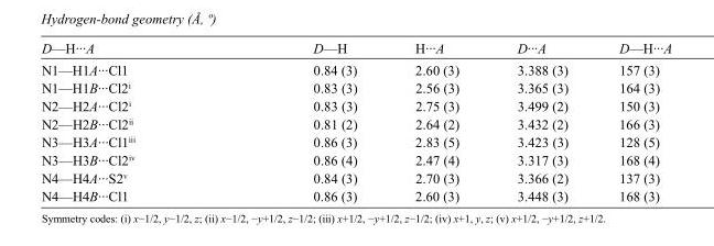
<table><tbody><tr><td>D—H···A</td><td>D—H</td><td>H···A</td><td>D···A</td><td>D—H···A</td></tr><tr><td>N1—H1A···Cl1</td><td>0.84 (3)</td><td>2.60 (3)</td><td>3.388 (3)</td><td>157 (3)</td></tr><tr><td>N1—H1B···Cl2<sup>i</sup></td><td>0.83 (3)</td><td>2.56 (3)</td><td>3.365 (3)</td><td>164 (3)</td></tr><tr><td>N2—H2A···Cl2<sup>i</sup></td><td>0.83 (3)</td><td>2.75 (3)</td><td>3.499 (2)</td><td>150 (3)</td></tr><tr><td>N2—H2B···Cl2<sup>ii</sup></td><td>0.81 (2)</td><td>2.64 (2)</td><td>3.432 (2)</td><td>166 (3)</td></tr><tr><td>N3—H3A···Cl1<sup>iii</sup></td><td>0.86 (3)</td><td>2.83 (5)</td><td>3.423 (3)</td><td>128 (5)</td></tr><tr><td>N3—H3B···Cl2<sup>iv</sup></td><td>0.86 (4)</td><td>2.47 (4)</td><td>3.317 (3)</td><td>168 (4)</td></tr><tr><td>N4—H4A···S2<sup>v</sup></td><td>0.84 (3)</td><td>2.70 (3)</td><td>3.366 (2)</td><td>137 (3)</td></tr><tr><td>N4—H4B···Cl1</td><td>0.86 (3)</td><td>2.60 (3)</td><td>3.448 (3)</td><td>168 (3)</td></tr></tbody></table>